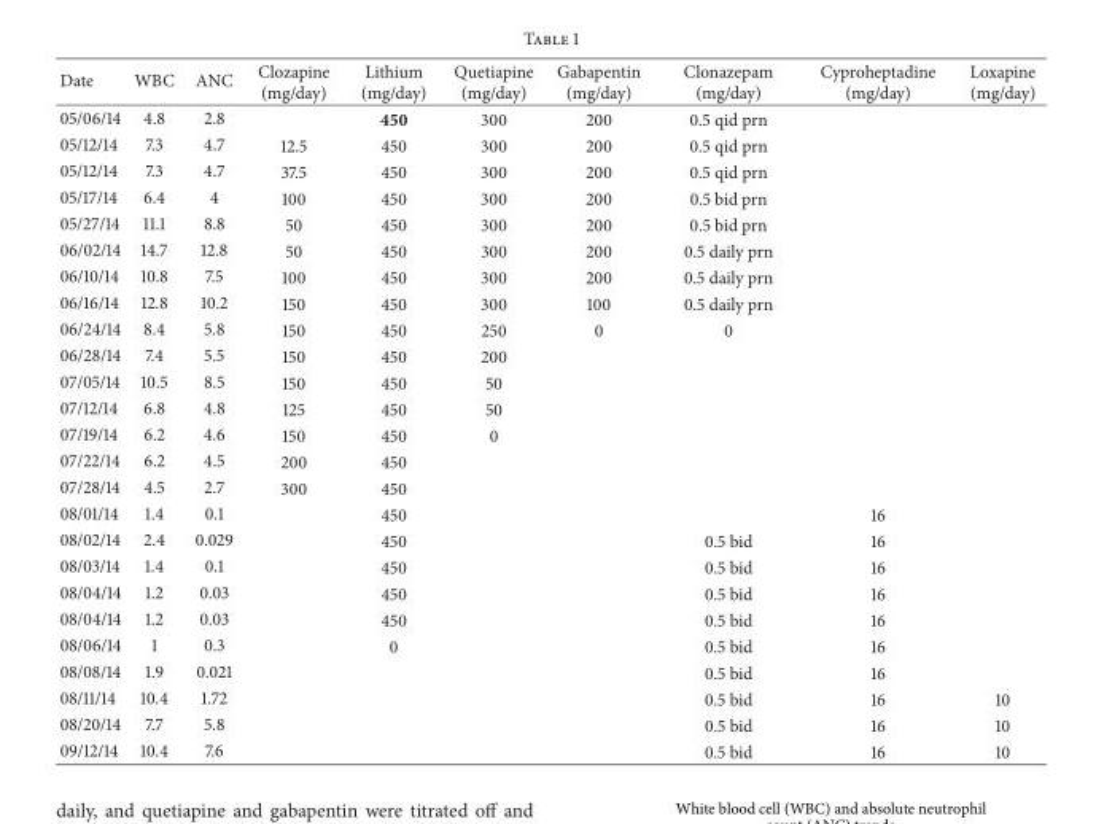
<table><thead><tr><td>Date</td><td>WBC</td><td>ANC</td><td>Clozapine (mg/day)</td><td>Lithium (mg/day)</td><td>Quetiapine (mg/day)</td><td>Gabapentin (mg/day)</td><td>Clonazepam (mg/day)</td><td>Cyproheptadine (mg/day)</td><td>Loxapine (mg/day)</td></tr></thead><tbody><tr><td>05/06/14</td><td>4.8</td><td>2.8</td><td></td><td>450</td><td>300</td><td>200</td><td>0.5 qid prn</td><td></td><td></td></tr><tr><td>05/12/14</td><td>7.3</td><td>4.7</td><td>12.5</td><td>450</td><td>300</td><td>200</td><td>0.5 qid prn</td><td></td><td></td></tr><tr><td>05/12/14</td><td>7.3</td><td>4.7</td><td>37.5</td><td>450</td><td>300</td><td>200</td><td>0.5 qid prn</td><td></td><td></td></tr><tr><td>05/17/14</td><td>6.4</td><td>4</td><td>100</td><td>450</td><td>300</td><td>200</td><td>0.5 bid prn</td><td></td><td></td></tr><tr><td>05/27/14</td><td>11.1</td><td>8.8</td><td>50</td><td>450</td><td>300</td><td>200</td><td>0.5 bid prn</td><td></td><td></td></tr><tr><td>06/02/14</td><td>14.7</td><td>12.8</td><td>50</td><td>450</td><td>300</td><td>200</td><td>0.5 daily prn</td><td></td><td></td></tr><tr><td>06/10/14</td><td>10.8</td><td>7.5</td><td>100</td><td>450</td><td>300</td><td>200</td><td>0.5 daily prn</td><td></td><td></td></tr><tr><td>06/16/14</td><td>12.8</td><td>10.2</td><td>150</td><td>450</td><td>300</td><td>100</td><td>0.5 daily prn</td><td></td><td></td></tr><tr><td>06/24/14</td><td>8.4</td><td>5.8</td><td>150</td><td>450</td><td>250</td><td>0</td><td>0</td><td></td><td></td></tr><tr><td>06/28/14</td><td>7.4</td><td>5.5</td><td>150</td><td>450</td><td>200</td><td></td><td></td><td></td><td></td></tr><tr><td>07/05/14</td><td>10.5</td><td>8.5</td><td>150</td><td>450</td><td>50</td><td></td><td></td><td></td><td></td></tr><tr><td>07/12/14</td><td>6.8</td><td>4.8</td><td>125</td><td>450</td><td>50</td><td></td><td></td><td></td><td></td></tr><tr><td>07/19/14</td><td>6.2</td><td>4.6</td><td>150</td><td>450</td><td>0</td><td></td><td></td><td></td><td></td></tr><tr><td>07/22/14</td><td>6.2</td><td>4.5</td><td>200</td><td>450</td><td></td><td></td><td></td><td></td><td></td></tr><tr><td>07/28/14</td><td>4.5</td><td>2.7</td><td>300</td><td>450</td><td></td><td></td><td></td><td></td><td></td></tr><tr><td>08/01/14</td><td>1.4</td><td>0.1</td><td></td><td>450</td><td></td><td></td><td></td><td>16</td><td></td></tr><tr><td>08/02/14</td><td>2.4</td><td>0.029</td><td></td><td>450</td><td></td><td></td><td>0.5 bid</td><td>16</td><td></td></tr><tr><td>08/03/14</td><td>1.4</td><td>0.1</td><td></td><td>450</td><td></td><td></td><td>0.5 bid</td><td>16</td><td></td></tr><tr><td>08/04/14</td><td>1.2</td><td>0.03</td><td></td><td>450</td><td></td><td></td><td>0.5 bid</td><td>16</td><td></td></tr><tr><td>08/04/14</td><td>1.2</td><td>0.03</td><td></td><td>450</td><td></td><td></td><td>0.5 bid</td><td>16</td><td></td></tr><tr><td>08/06/14</td><td>1</td><td>0.3</td><td></td><td>0</td><td></td><td></td><td>0.5 bid</td><td>16</td><td></td></tr><tr><td>08/08/14</td><td>1.9</td><td>0.021</td><td></td><td></td><td></td><td></td><td>0.5 bid</td><td>16</td><td></td></tr><tr><td>08/11/14</td><td>10.4</td><td>1.72</td><td></td><td></td><td></td><td></td><td>0.5 bid</td><td>16</td><td>10</td></tr><tr><td>08/20/14</td><td>7.7</td><td>5.8</td><td></td><td></td><td></td><td></td><td>0.5 bid</td><td>16</td><td>10</td></tr><tr><td>09/12/14</td><td>10.4</td><td>7.6</td><td></td><td></td><td></td><td></td><td>0.5 bid</td><td>16</td><td>10</td></tr></tbody></table>